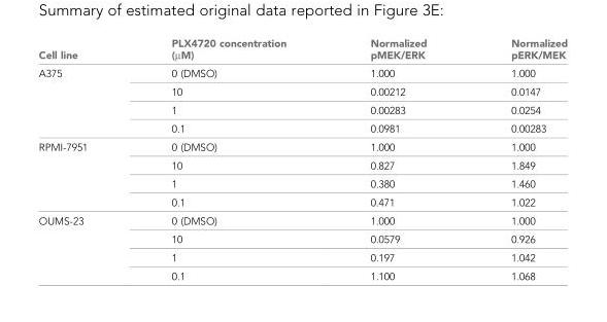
<table><thead><tr><td>Cell line</td><td>PLX4720 concentration (µM)</td><td>Normalized pMEK/ERK</td><td>Normalized pERK/MEK</td></tr></thead><tbody><tr><td rowspan="4">A375</td><td>0 (DMSO)</td><td>1.000</td><td>1.000</td></tr><tr><td>10</td><td>0.00212</td><td>0.0147</td></tr><tr><td>1</td><td>0.00283</td><td>0.0254</td></tr><tr><td>0.1</td><td>0.0981</td><td>0.00283</td></tr><tr><td rowspan="4">RPMI-7951</td><td>0 (DMSO)</td><td>1.000</td><td>1.000</td></tr><tr><td>10</td><td>0.827</td><td>1.849</td></tr><tr><td>1</td><td>0.380</td><td>1.460</td></tr><tr><td>0.1</td><td>0.471</td><td>1.022</td></tr><tr><td rowspan="4">OUMS-23</td><td>0 (DMSO)</td><td>1.000</td><td>1.000</td></tr><tr><td>10</td><td>0.0579</td><td>0.926</td></tr><tr><td>1</td><td>0.197</td><td>1.042</td></tr><tr><td>0.1</td><td>1.100</td><td>1.068</td></tr></tbody></table>